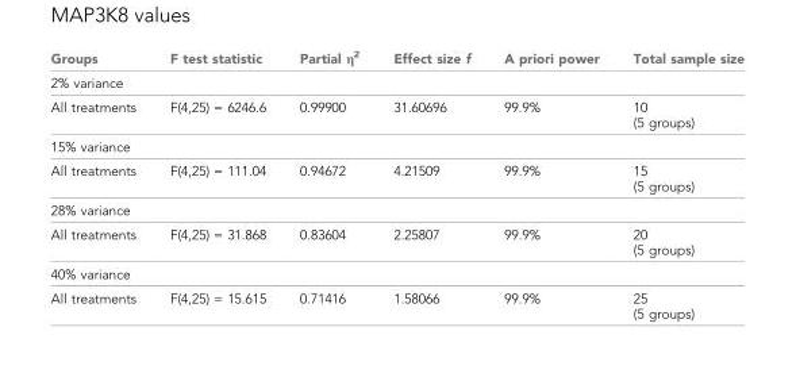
<table><thead><tr><td>Groups</td><td>F test statistic</td><td>Partial η<sup>2</sup></td><td>Effect size f</td><td>A priori power</td><td>Total sample size</td></tr></thead><tbody><tr><td colspan="6">2% variance</td></tr><tr><td>All treatments</td><td>F(4,25) = 6246.6</td><td>0.99900</td><td>31.60696</td><td>99.9%</td><td>10 (5 groups)</td></tr><tr><td colspan="6">15% variance</td></tr><tr><td>All treatments</td><td>F(4,25) = 111.04</td><td>0.94672</td><td>4.21509</td><td>99.9%</td><td>15 (5 groups)</td></tr><tr><td colspan="6">28% variance</td></tr><tr><td>All treatments</td><td>F(4,25) = 31.868</td><td>0.83604</td><td>2.25807</td><td>99.9%</td><td>20 (5 groups)</td></tr><tr><td colspan="6">40% variance</td></tr><tr><td>All treatments</td><td>F(4,25) = 15.615</td><td>0.71416</td><td>1.58066</td><td>99.9%</td><td>25 (5 groups)</td></tr></tbody></table>